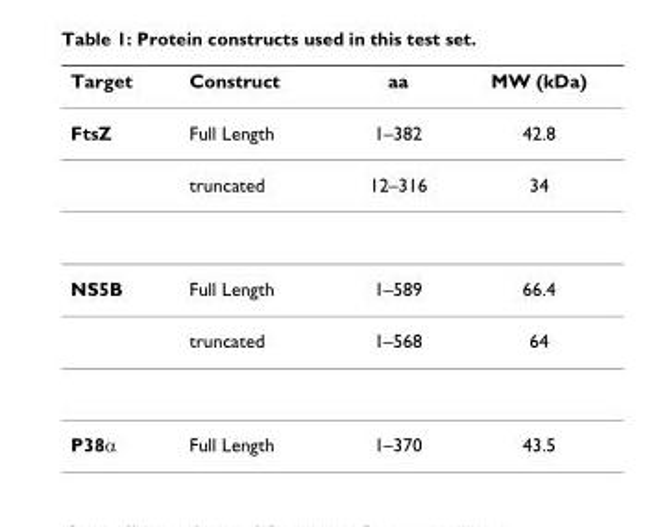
<table><thead><tr><td>Target</td><td>Construct</td><td>aa</td><td>MW (kDa)</td></tr></thead><tbody><tr><td rowspan="2">FtsZ</td><td>Full Length</td><td>1–382</td><td>42.8</td></tr><tr><td>truncated</td><td>12–316</td><td>34</td></tr><tr><td rowspan="2">NS5B</td><td>Full Length</td><td>1–589</td><td>66.4</td></tr><tr><td>truncated</td><td>1–568</td><td>64</td></tr><tr><td>P38α</td><td>Full Length</td><td>1–370</td><td>43.5</td></tr></tbody></table>